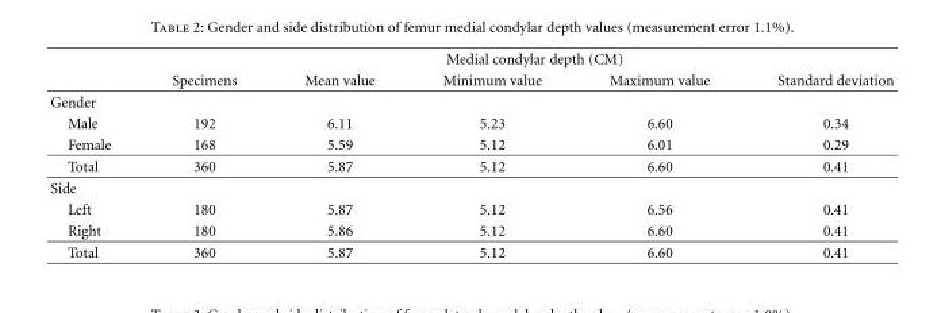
<table><thead><tr><td rowspan="2"></td><td colspan="5">Medial condylar depth (CM)</td></tr><tr><td>Specimens</td><td>Mean value</td><td>Minimum value</td><td>Maximum value</td><td>Standard deviation</td></tr></thead><tbody><tr><td colspan="6">Gender</td></tr><tr><td>Male</td><td>192</td><td>6.11</td><td>5.23</td><td>6.60</td><td>0.34</td></tr><tr><td>Female</td><td>168</td><td>5.59</td><td>5.12</td><td>6.01</td><td>0.29</td></tr><tr><td>Total</td><td>360</td><td>5.87</td><td>5.12</td><td>6.60</td><td>0.41</td></tr><tr><td colspan="6">Side</td></tr><tr><td>Left</td><td>180</td><td>5.87</td><td>5.12</td><td>6.56</td><td>0.41</td></tr><tr><td>Right</td><td>180</td><td>5.86</td><td>5.12</td><td>6.60</td><td>0.41</td></tr><tr><td>Total</td><td>360</td><td>5.87</td><td>5.12</td><td>6.60</td><td>0.41</td></tr></tbody></table>